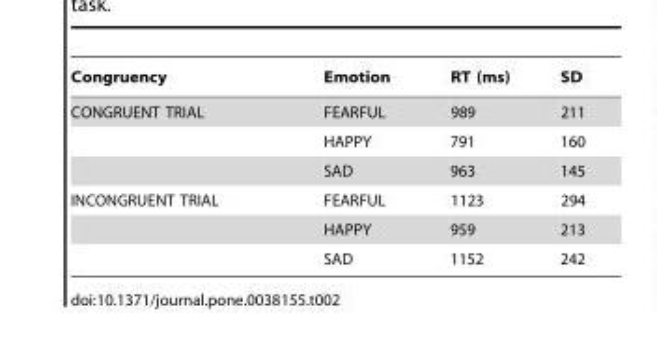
<table><thead><tr><td>Congruency</td><td>Emotion</td><td>RT (ms)</td><td>SD</td></tr></thead><tbody><tr><td rowspan="3">CONGRUENT TRIAL</td><td>FEARFUL</td><td>989</td><td>211</td></tr><tr><td>HAPPY</td><td>791</td><td>160</td></tr><tr><td>SAD</td><td>963</td><td>145</td></tr><tr><td rowspan="3">INCONGRUENT TRIAL</td><td>FEARFUL</td><td>1123</td><td>294</td></tr><tr><td>HAPPY</td><td>959</td><td>213</td></tr><tr><td>SAD</td><td>1152</td><td>242</td></tr></tbody></table>